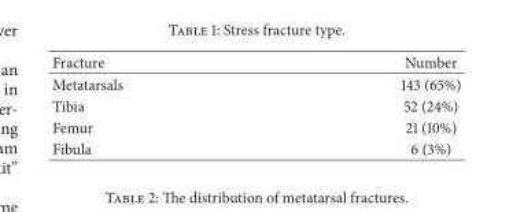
<table><thead><tr><td>Fracture</td><td>Number</td></tr></thead><tbody><tr><td>Metatarsals</td><td>143 (65%)</td></tr><tr><td>Tibia</td><td>52 (24%)</td></tr><tr><td>Femur</td><td>21 (10%)</td></tr><tr><td>Fibula</td><td>6 (3%)</td></tr></tbody></table>